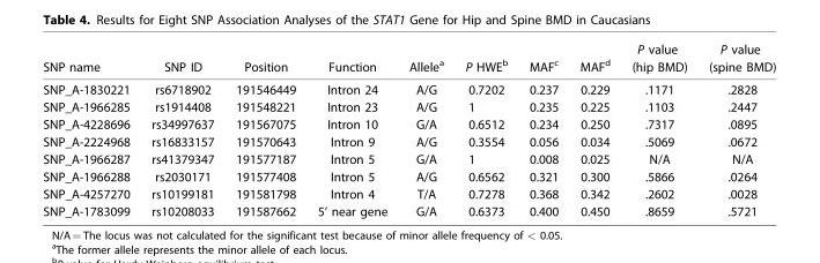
<table><thead><tr><td>SNP name</td><td>SNP ID</td><td>Position</td><td>Function</td><td>Allele<sup>a</sup></td><td>P HWE<sup>b</sup></td><td>MAF<sup>c</sup></td><td>MAF<sup>d</sup></td><td>P value (hip BMD)</td><td>P value (spine BMD)</td></tr></thead><tbody><tr><td>SNP_A-1830221</td><td>rs6718902</td><td>191546449</td><td>Intron 24</td><td>A/G</td><td>0.7202</td><td>0.237</td><td>0.229</td><td>.1171</td><td>.2828</td></tr><tr><td>SNP_A-1966285</td><td>rs1914408</td><td>191548221</td><td>Intron 23</td><td>A/G</td><td>1</td><td>0.235</td><td>0.225</td><td>.1103</td><td>.2447</td></tr><tr><td>SNP_A-4228696</td><td>rs34997637</td><td>191567075</td><td>Intron 10</td><td>G/A</td><td>0.6512</td><td>0.234</td><td>0.250</td><td>.7317</td><td>.0895</td></tr><tr><td>SNP_A-2224968</td><td>rs16833157</td><td>191570643</td><td>Intron 9</td><td>A/G</td><td>0.3554</td><td>0.056</td><td>0.034</td><td>.5069</td><td>.0672</td></tr><tr><td>SNP_A-1966287</td><td>rs41379347</td><td>191577187</td><td>Intron 5</td><td>G/A</td><td>1</td><td>0.008</td><td>0.025</td><td>N/A</td><td>N/A</td></tr><tr><td>SNP_A-1966288</td><td>rs2030171</td><td>191577408</td><td>Intron 5</td><td>A/G</td><td>0.6562</td><td>0.321</td><td>0.300</td><td>.5866</td><td>.0264</td></tr><tr><td>SNP_A-4257270</td><td>rs10199181</td><td>191581798</td><td>Intron 4</td><td>T/A</td><td>0.7278</td><td>0.368</td><td>0.342</td><td>.2602</td><td>.0028</td></tr><tr><td>SNP_A-1783099</td><td>rs10208033</td><td>191587662</td><td>5’ near gene</td><td>G/A</td><td>0.6373</td><td>0.400</td><td>0.450</td><td>.8659</td><td>.5721</td></tr></tbody></table>